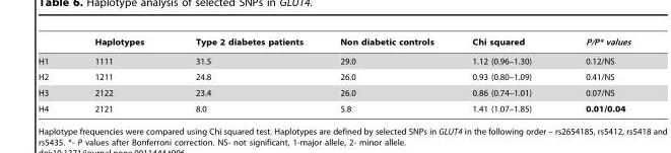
<table><thead><tr><td></td><td>Haplotypes</td><td>Type 2 diabetes patients</td><td>Non diabetic controls</td><td>Chi squared</td><td>P/P* values</td></tr></thead><tbody><tr><td>H1</td><td>1111</td><td>31.5</td><td>29.0</td><td>1.12 (0.96–1.30)</td><td>0.12/NS</td></tr><tr><td>H2</td><td>1211</td><td>24.8</td><td>26.0</td><td>0.93 (0.80–1.09)</td><td>0.41/NS</td></tr><tr><td>H3</td><td>2122</td><td>23.4</td><td>26.0</td><td>0.86 (0.74–1.01)</td><td>0.07/NS</td></tr><tr><td>H4</td><td>2121</td><td>8.0</td><td>5.8</td><td>1.41 (1.07–1.85)</td><td>0.01/0.04</td></tr></tbody></table>